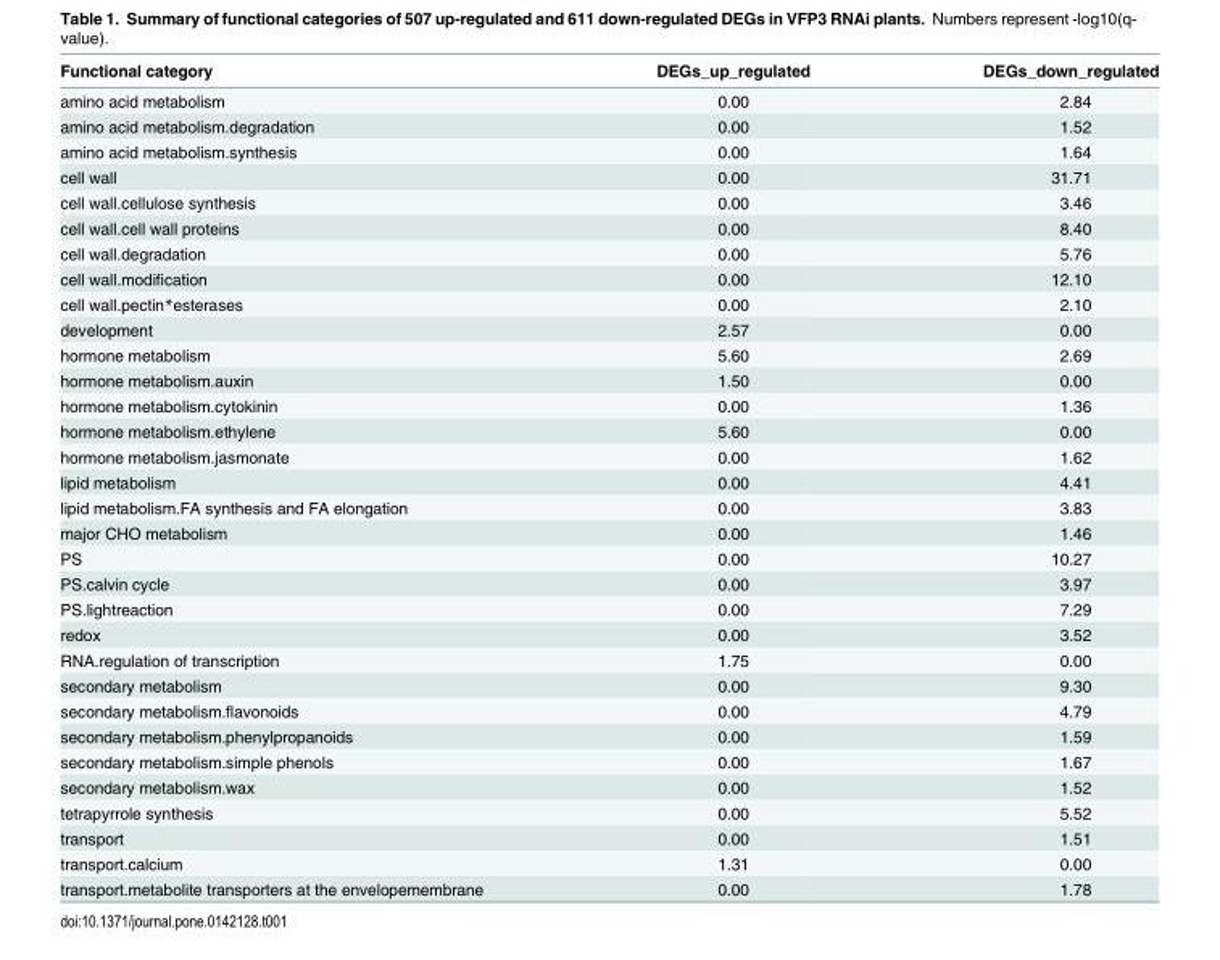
<table><thead><tr><td>Functional category</td><td>DEGs_up_regulated</td><td>DEGs_down_regulated</td></tr></thead><tbody><tr><td>amino acid metabolism</td><td>0.00</td><td>2.84</td></tr><tr><td>amino acid metabolism.degradation</td><td>0.00</td><td>1.52</td></tr><tr><td>amino acid metabolism.synthesis</td><td>0.00</td><td>1.64</td></tr><tr><td>cell wall</td><td>0.00</td><td>31.71</td></tr><tr><td>cell wall.cellulose synthesis</td><td>0.00</td><td>3.46</td></tr><tr><td>cell wall.cell wall proteins</td><td>0.00</td><td>8.40</td></tr><tr><td>cell wall.degradation</td><td>0.00</td><td>5.76</td></tr><tr><td>cell wall.modification</td><td>0.00</td><td>12.10</td></tr><tr><td>cell wall.pectin*esterases</td><td>0.00</td><td>2.10</td></tr><tr><td>development</td><td>2.57</td><td>0.00</td></tr><tr><td>hormone metabolism</td><td>5.60</td><td>2.69</td></tr><tr><td>hormone metabolism.auxin</td><td>1.50</td><td>0.00</td></tr><tr><td>hormone metabolism.cytokinin</td><td>0.00</td><td>1.36</td></tr><tr><td>hormone metabolism.ethylene</td><td>5.60</td><td>0.00</td></tr><tr><td>hormone metabolism.jasmonate</td><td>0.00</td><td>1.62</td></tr><tr><td>lipid metabolism</td><td>0.00</td><td>4.41</td></tr><tr><td>lipid metabolism.FA synthesis and FA elongation</td><td>0.00</td><td>3.83</td></tr><tr><td>major CHO metabolism</td><td>0.00</td><td>1.46</td></tr><tr><td>PS</td><td>0.00</td><td>10.27</td></tr><tr><td>PS.calvin cycle</td><td>0.00</td><td>3.97</td></tr><tr><td>PS.lightreaction</td><td>0.00</td><td>7.29</td></tr><tr><td>redox</td><td>0.00</td><td>3.52</td></tr><tr><td>RNA.regulation of transcription</td><td>1.75</td><td>0.00</td></tr><tr><td>secondary metabolism</td><td>0.00</td><td>9.30</td></tr><tr><td>secondary metabolism.flavonoids</td><td>0.00</td><td>4.79</td></tr><tr><td>secondary metabolism.phenylpropanoids</td><td>0.00</td><td>1.59</td></tr><tr><td>secondary metabolism.simple phenols</td><td>0.00</td><td>1.67</td></tr><tr><td>secondary metabolism.wax</td><td>0.00</td><td>1.52</td></tr><tr><td>tetrapyrrole synthesis</td><td>0.00</td><td>5.52</td></tr><tr><td>transport</td><td>0.00</td><td>1.51</td></tr><tr><td>transport.calcium</td><td>1.31</td><td>0.00</td></tr><tr><td>transport.metabolite transporters at the envelopemembrane</td><td>0.00</td><td>1.78</td></tr></tbody></table>